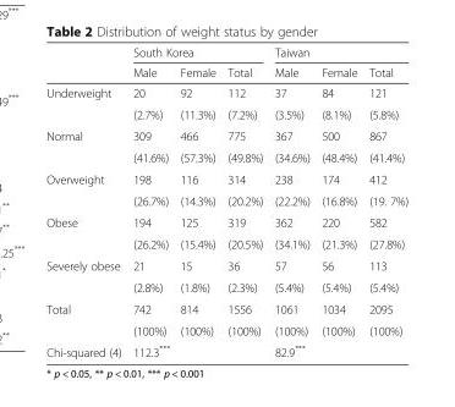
<table><thead><tr><td rowspan="2"></td><td colspan="3">South Korea</td><td colspan="3">Taiwan</td></tr><tr><td>Male</td><td>Female</td><td>Total</td><td>Male</td><td>Female</td><td>Total</td></tr></thead><tbody><tr><td rowspan="2">Underweight</td><td>20</td><td>92</td><td>112</td><td>37</td><td>84</td><td>121</td></tr><tr><td>(2.7%)</td><td>(11.3%)</td><td>(7.2%)</td><td>(3.5%)</td><td>(8.1%)</td><td>(5.8%)</td></tr><tr><td rowspan="2">Normal</td><td>309</td><td>466</td><td>775</td><td>367</td><td>500</td><td>867</td></tr><tr><td>(41.6%)</td><td>(57.3%)</td><td>(49.8%)</td><td>(34.6%)</td><td>(48.4%)</td><td>(41.4%)</td></tr><tr><td rowspan="2">Overweight</td><td>198</td><td>116</td><td>314</td><td>238</td><td>174</td><td>412</td></tr><tr><td>(26.7%)</td><td>(14.3%)</td><td>(20.2%)</td><td>(22.2%)</td><td>(16.8%)</td><td>(19. 7%)</td></tr><tr><td rowspan="2">Obese</td><td>194</td><td>125</td><td>319</td><td>362</td><td>220</td><td>582</td></tr><tr><td>(26.2%)</td><td>(15.4%)</td><td>(20.5%)</td><td>(34.1%)</td><td>(21.3%)</td><td>(27.8%)</td></tr><tr><td rowspan="2">Severely obese</td><td>21</td><td>15</td><td>36</td><td>57</td><td>56</td><td>113</td></tr><tr><td>(2.8%)</td><td>(1.8%)</td><td>(2.3%)</td><td>(5.4%)</td><td>(5.4%)</td><td>(5.4%)</td></tr><tr><td rowspan="2">Total</td><td>742</td><td>814</td><td>1556</td><td>1061</td><td>1034</td><td>2095</td></tr><tr><td>(100%)</td><td>(100%)</td><td>(100%)</td><td>(100%)</td><td>(100%)</td><td>(100%)</td></tr><tr><td>Chi-squared (4)</td><td colspan="3">112.3***</td><td colspan="3">82.9***</td></tr></tbody></table>